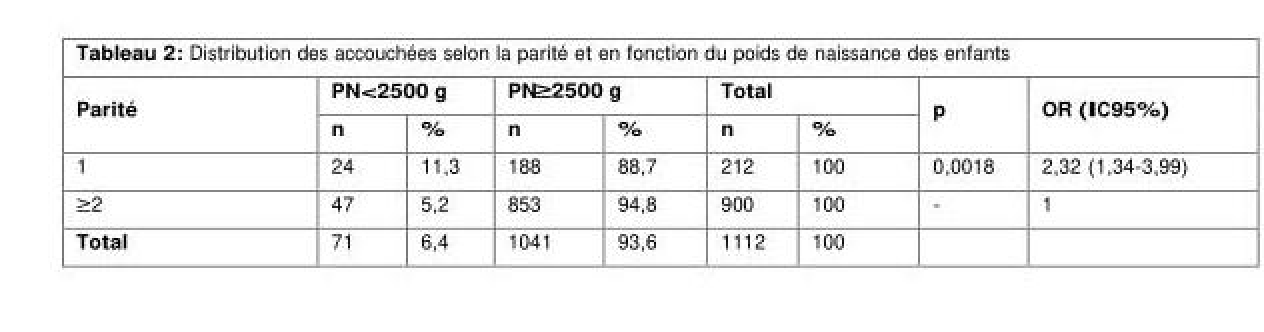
<table><thead><tr><td rowspan="2">Parité</td><td colspan="2">PN&lt;2500 g</td><td colspan="2">PN≥2500 g</td><td colspan="2">Total</td><td rowspan="2">p</td><td rowspan="2">OR (IC95%)</td></tr><tr><td>n</td><td>%</td><td>n</td><td>%</td><td>n</td><td>%</td></tr></thead><tbody><tr><td>1</td><td>24</td><td>11,3</td><td>188</td><td>88,7</td><td>212</td><td>100</td><td>0,0018</td><td>2,32 (1,34-3,99)</td></tr><tr><td>≥2</td><td>47</td><td>5,2</td><td>853</td><td>94,8</td><td>900</td><td>100</td><td>-</td><td>1</td></tr><tr><td>Total</td><td>71</td><td>6,4</td><td>1041</td><td>93,6</td><td>1112</td><td>100</td><td></td><td></td></tr></tbody></table>